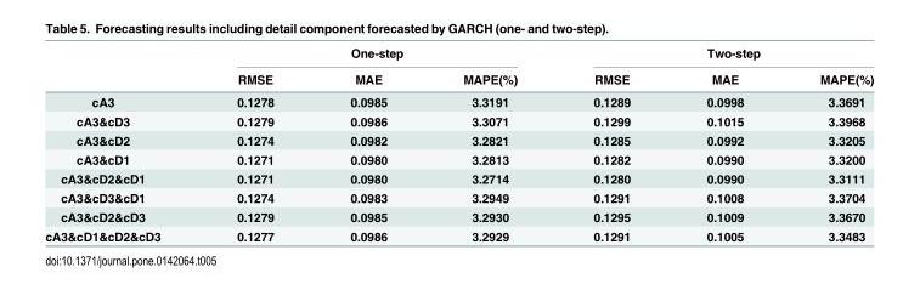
<table><thead><tr><td rowspan="2"></td><td colspan="3">One-step</td><td colspan="3">Two-step</td></tr><tr><td>RMSE</td><td>MAE</td><td>MAPE(%)</td><td>RMSE</td><td>MAE</td><td>MAPE(%)</td></tr></thead><tbody><tr><td>cA3</td><td>0.1278</td><td>0.0985</td><td>3.3191</td><td>0.1289</td><td>0.0998</td><td>3.3691</td></tr><tr><td>cA3&amp;cD3</td><td>0.1279</td><td>0.0986</td><td>3.3071</td><td>0.1299</td><td>0.1015</td><td>3.3968</td></tr><tr><td>cA3&amp;cD2</td><td>0.1274</td><td>0.0982</td><td>3.2821</td><td>0.1285</td><td>0.0992</td><td>3.3205</td></tr><tr><td>cA3&amp;cD1</td><td>0.1271</td><td>0.0980</td><td>3.2813</td><td>0.1282</td><td>0.0990</td><td>3.3200</td></tr><tr><td>cA3&amp;cD2&amp;cD1</td><td>0.1271</td><td>0.0980</td><td>3.2714</td><td>0.1280</td><td>0.0990</td><td>3.3111</td></tr><tr><td>cA3&amp;cD3&amp;cD1</td><td>0.1274</td><td>0.0983</td><td>3.2949</td><td>0.1291</td><td>0.1008</td><td>3.3704</td></tr><tr><td>cA3&amp;cD2&amp;cD3</td><td>0.1279</td><td>0.0985</td><td>3.2930</td><td>0.1295</td><td>0.1009</td><td>3.3670</td></tr><tr><td>cA3&amp;cD1&amp;cD2&amp;cD3</td><td>0.1277</td><td>0.0986</td><td>3.2929</td><td>0.1291</td><td>0.1005</td><td>3.3483</td></tr></tbody></table>